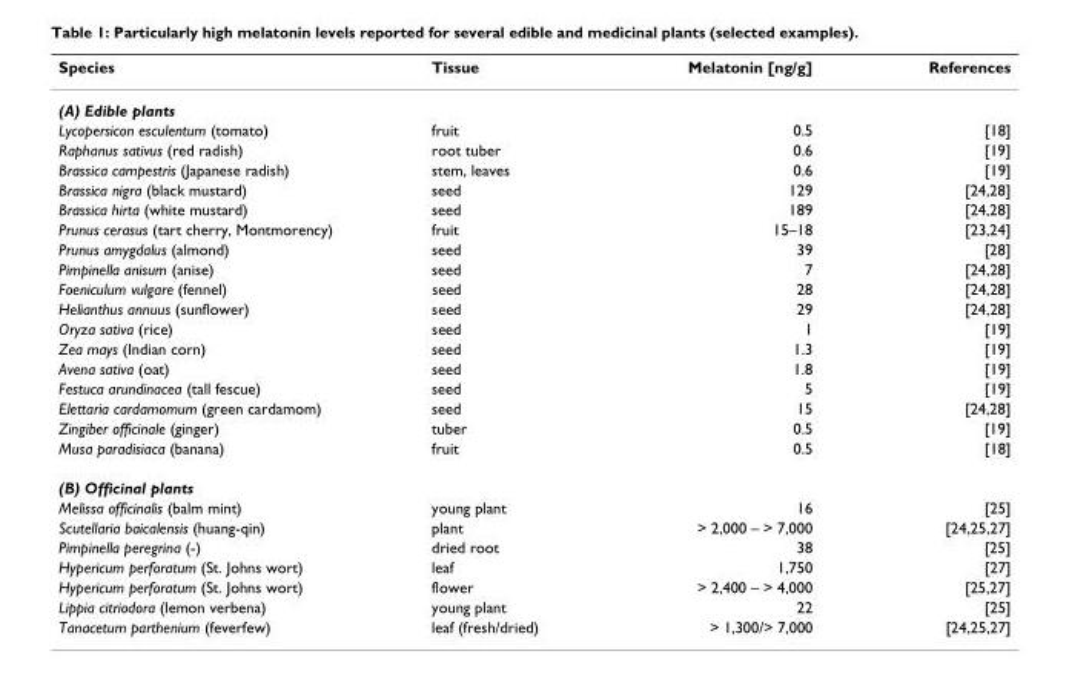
<table><thead><tr><td>Species</td><td>Tissue</td><td>Melatonin [ng/g]</td><td>References</td></tr></thead><tbody><tr><td colspan="4">(A) Edible plants</td></tr><tr><td>Lycopersicon esculentum (tomato)</td><td>fruit</td><td>0.5</td><td>[18]</td></tr><tr><td>Raphanus sativus (red radish)</td><td>root tuber</td><td>0.6</td><td>[19]</td></tr><tr><td>Brassica campestris (Japanese radish)</td><td>stem, leaves</td><td>0.6</td><td>[19]</td></tr><tr><td>Brassica nigra (black mustard)</td><td>seed</td><td>129</td><td>[24,28]</td></tr><tr><td>Brassica hirta (white mustard)</td><td>seed</td><td>189</td><td>[24,28]</td></tr><tr><td>Prunus cerasus (tart cherry, Montmorency)</td><td>fruit</td><td>15–18</td><td>[23,24]</td></tr><tr><td>Prunus amygdalus (almond)</td><td>seed</td><td>39</td><td>[28]</td></tr><tr><td>Pimpinella anisum (anise)</td><td>seed</td><td>7</td><td>[24,28]</td></tr><tr><td>Foeniculum vulgare (fennel)</td><td>seed</td><td>28</td><td>[24,28]</td></tr><tr><td>Helianthus annuus (sunflower)</td><td>seed</td><td>29</td><td>[24,28]</td></tr><tr><td>Oryza sativa (rice)</td><td>seed</td><td>1</td><td>[19]</td></tr><tr><td>Zea mays (Indian corn)</td><td>seed</td><td>1.3</td><td>[19]</td></tr><tr><td>Avena sativa (oat)</td><td>seed</td><td>1.8</td><td>[19]</td></tr><tr><td>Festuca arundinacea (tall fescue)</td><td>seed</td><td>5</td><td>[19]</td></tr><tr><td>Elettaria cardamomum (green cardamom)</td><td>seed</td><td>15</td><td>[24,28]</td></tr><tr><td>Zingiber officinale (ginger)</td><td>tuber</td><td>0.5</td><td>[19]</td></tr><tr><td>Musa paradisiaca (banana)</td><td>fruit</td><td>0.5</td><td>[18]</td></tr><tr><td colspan="4">(B) Officinal plants</td></tr><tr><td>Melissa officinalis (balm mint)</td><td>young plant</td><td>16</td><td>[25]</td></tr><tr><td>Scutellaria baicalensis (huang-qin)</td><td>plant</td><td>&gt; 2,000 – &gt; 7,000</td><td>[24,25,27]</td></tr><tr><td>Pimpinella peregrina (-)</td><td>dried root</td><td>38</td><td>[25]</td></tr><tr><td>Hypericum perforatum (St. Johns wort)</td><td>leaf</td><td>1,750</td><td>[27]</td></tr><tr><td>Hypericum perforatum (St. Johns wort)</td><td>flower</td><td>&gt; 2,400 – &gt; 4,000</td><td>[25,27]</td></tr><tr><td>Lippia citriodora (lemon verbena)</td><td>young plant</td><td>22</td><td>[25]</td></tr><tr><td>Tanacetum parthenium (feverfew)</td><td>leaf (fresh/dried)</td><td>&gt; 1,300/&gt; 7,000</td><td>[24,25,27]</td></tr></tbody></table>